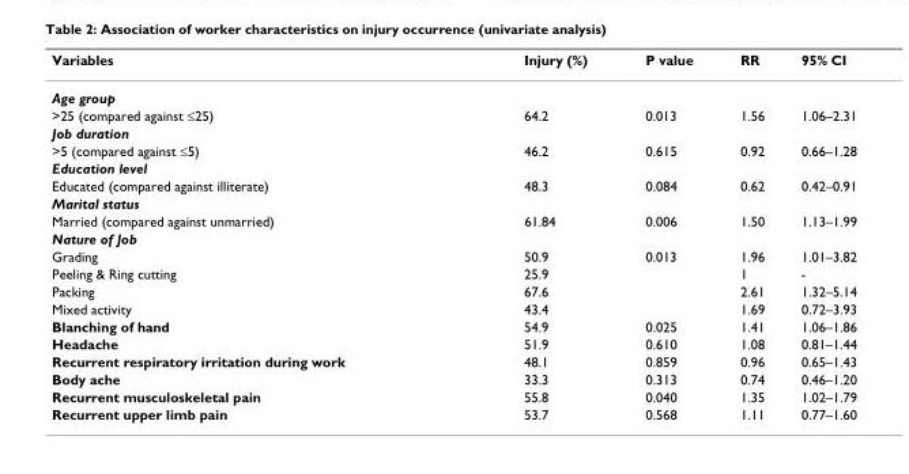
<table><thead><tr><td>Variables</td><td>Injury (%)</td><td>P value</td><td>RR</td><td>95% CI</td></tr></thead><tbody><tr><td colspan="5">Age group</td></tr><tr><td>&gt;25 (compared against ≤25)</td><td>64.2</td><td>0.013</td><td>1.56</td><td>1.06–2.31</td></tr><tr><td colspan="5">Job duration</td></tr><tr><td>&gt;5 (compared against ≤5)</td><td>46.2</td><td>0.615</td><td>0.92</td><td>0.66–1.28</td></tr><tr><td colspan="5">Education level</td></tr><tr><td>Educated (compared against illiterate)</td><td>48.3</td><td>0.084</td><td>0.62</td><td>0.42–0.91</td></tr><tr><td colspan="5">Marital status</td></tr><tr><td>Married (compared against unmarried)</td><td>61.84</td><td>0.006</td><td>1.50</td><td>1.13–1.99</td></tr><tr><td colspan="5">Nature of Job</td></tr><tr><td>Grading</td><td>50.9</td><td>0.013</td><td>1.96</td><td>1.01–3.82</td></tr><tr><td>Peeling &amp; Ring cutting</td><td>25.9</td><td></td><td>1</td><td>-</td></tr><tr><td>Packing</td><td>67.6</td><td></td><td>2.61</td><td>1.32–5.14</td></tr><tr><td>Mixed activity</td><td>43.4</td><td></td><td>1.69</td><td>0.72–3.93</td></tr><tr><td>Blanching of hand</td><td>54.9</td><td>0.025</td><td>1.41</td><td>1.06–1.86</td></tr><tr><td>Headache</td><td>51.9</td><td>0.610</td><td>1.08</td><td>0.81–1.44</td></tr><tr><td>Recurrent respiratory irritation during work</td><td>48.1</td><td>0.859</td><td>0.96</td><td>0.65–1.43</td></tr><tr><td>Body ache</td><td>33.3</td><td>0.313</td><td>0.74</td><td>0.46–1.20</td></tr><tr><td>Recurrent musculoskeletal pain</td><td>55.8</td><td>0.040</td><td>1.35</td><td>1.02–1.79</td></tr><tr><td>Recurrent upper limb pain</td><td>53.7</td><td>0.568</td><td>1.11</td><td>0.77–1.60</td></tr></tbody></table>